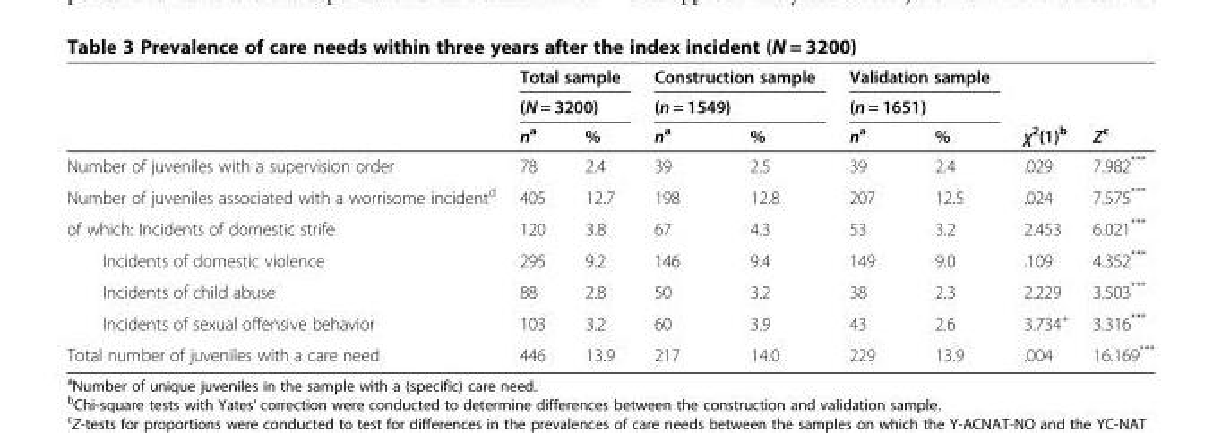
<table><thead><tr><td rowspan="3"></td><td rowspan="2" colspan="2">Total sample (N = 3200)</td><td rowspan="2" colspan="2">Construction sample (n = 1549)</td><td rowspan="2" colspan="2">Validation sample (n = 1651)</td><td rowspan="3">χ<sup>2</sup>(1)<sup>b</sup></td><td rowspan="3">Z<sup>c</sup></td></tr><tr></tr><tr><td>n<sup>a</sup></td><td>%</td><td>n<sup>a</sup></td><td>%</td><td>n<sup>a</sup></td><td>%</td></tr></thead><tbody><tr><td>Number of juveniles with a supervision order</td><td>78</td><td>2.4</td><td>39</td><td>2.5</td><td>39</td><td>2.4</td><td>.029</td><td>7.982***</td></tr><tr><td>Number of juveniles associated with a worrisome incident<sup>d</sup></td><td>405</td><td>12.7</td><td>198</td><td>12.8</td><td>207</td><td>12.5</td><td>.024</td><td>7.575***</td></tr><tr><td>of which: Incidents of domestic strife</td><td>120</td><td>3.8</td><td>67</td><td>4.3</td><td>53</td><td>3.2</td><td>2.453</td><td>6.021***</td></tr><tr><td>Incidents of domestic violence</td><td>295</td><td>9.2</td><td>146</td><td>9.4</td><td>149</td><td>9.0</td><td>.109</td><td>4.352***</td></tr><tr><td>Incidents of child abuse</td><td>88</td><td>2.8</td><td>50</td><td>3.2</td><td>38</td><td>2.3</td><td>2.229</td><td>3.503***</td></tr><tr><td>Incidents of sexual offensive behavior</td><td>103</td><td>3.2</td><td>60</td><td>3.9</td><td>43</td><td>2.6</td><td>3.734<sup>+</sup></td><td>3.316***</td></tr><tr><td>Total number of juveniles with a care need</td><td>446</td><td>13.9</td><td>217</td><td>14.0</td><td>229</td><td>13.9</td><td>.004</td><td>16.169***</td></tr></tbody></table>